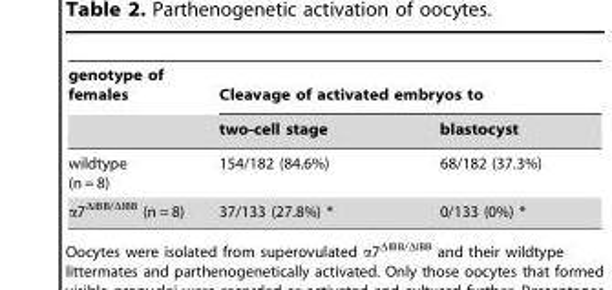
<table><thead><tr><td rowspan="2">genotype of females</td><td colspan="2">Cleavage of activated embryos to</td></tr><tr><td>two-cell stage</td><td>blastocyst</td></tr></thead><tbody><tr><td>wildtype (n = 8)</td><td>154/182 (84.6%)</td><td>68/182 (37.3%)</td></tr><tr><td>α7<sup>ΔIBB/ΔIBB</sup> (n = 8)</td><td>37/133 (27.8%) *</td><td>0/133 (0%) *</td></tr></tbody></table>